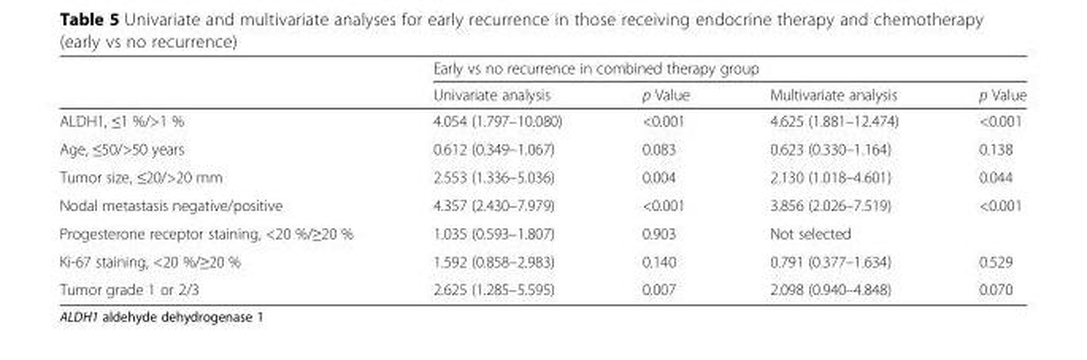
<table><thead><tr><td rowspan="2"></td><td colspan="4">Early vs no recurrence in combined therapy group</td></tr><tr><td>Univariate analysis</td><td>p Value</td><td>Multivariate analysis</td><td>p Value</td></tr></thead><tbody><tr><td>ALDH1, ≤1 %/&gt;1 %</td><td>4.054 (1.797–10.080)</td><td>&lt;0.001</td><td>4.625 (1.881–12.474)</td><td>&lt;0.001</td></tr><tr><td>Age, ≤50/&gt;50 years</td><td>0.612 (0.349–1.067)</td><td>0.083</td><td>0.623 (0.330–1.164)</td><td>0.138</td></tr><tr><td>Tumor size, ≤20/&gt;20 mm</td><td>2.553 (1.336–5.036)</td><td>0.004</td><td>2.130 (1.018–4.601)</td><td>0.044</td></tr><tr><td>Nodal metastasis negative/positive</td><td>4.357 (2.430–7.979)</td><td>&lt;0.001</td><td>3.856 (2.026–7.519)</td><td>&lt;0.001</td></tr><tr><td>Progesterone receptor staining, &lt;20 %/≥20 %</td><td>1.035 (0.593–1.807)</td><td>0.903</td><td>Not selected</td><td></td></tr><tr><td>Ki-67 staining, &lt;20 %/≥20 %</td><td>1.592 (0.858–2.983)</td><td>0.140</td><td>0.791 (0.377–1.634)</td><td>0.529</td></tr><tr><td>Tumor grade 1 or 2/3</td><td>2.625 (1.285–5.595)</td><td>0.007</td><td>2.098 (0.940–4.848)</td><td>0.070</td></tr></tbody></table>